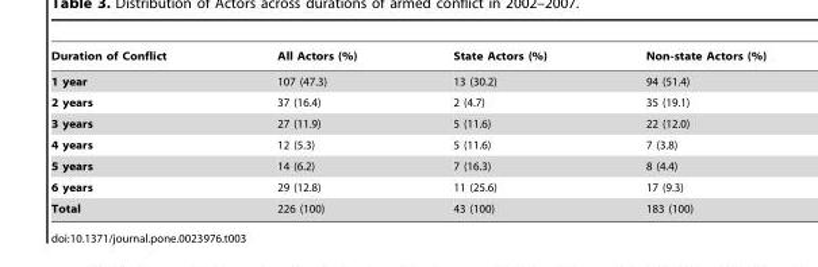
<table><thead><tr><td>Duration of Conflict</td><td>All Actors (%)</td><td>State Actors (%)</td><td>Non-state Actors (%)</td></tr></thead><tbody><tr><td>1 year</td><td>107 (47.3)</td><td>13 (30.2)</td><td>94 (51.4)</td></tr><tr><td>2 years</td><td>37 (16.4)</td><td>2 (4.7)</td><td>35 (19.1)</td></tr><tr><td>3 years</td><td>27 (11.9)</td><td>5 (11.6)</td><td>22 (12.0)</td></tr><tr><td>4 years</td><td>12 (5.3)</td><td>5 (11.6)</td><td>7 (3.8)</td></tr><tr><td>5 years</td><td>14 (6.2)</td><td>7 (16.3)</td><td>8 (4.4)</td></tr><tr><td>6 years</td><td>29 (12.8)</td><td>11 (25.6)</td><td>17 (9.3)</td></tr><tr><td>Total</td><td>226 (100)</td><td>43 (100)</td><td>183 (100)</td></tr></tbody></table>